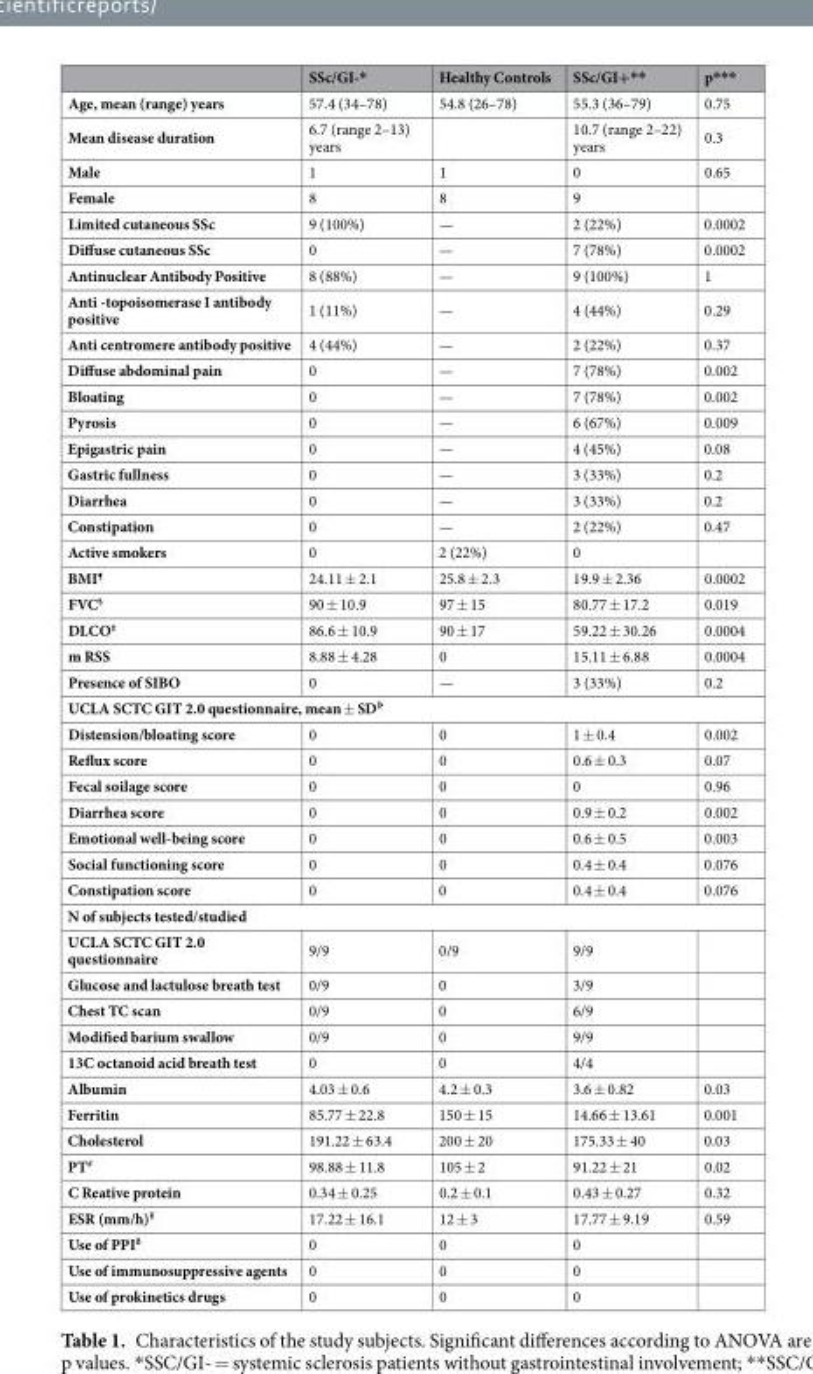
<table><thead><tr><td></td><td>SSc/GI-*</td><td>Healthy Controls</td><td>SSc/GI+**</td><td>p***</td></tr></thead><tbody><tr><td>Age, mean (range) years</td><td>57.4 (34–78)</td><td>54.8 (26–78)</td><td>55.3 (36–79)</td><td>0.75</td></tr><tr><td>Mean disease duration</td><td>6.7 (range 2–13) years</td><td></td><td>10.7 (range 2–22) years</td><td>0.3</td></tr><tr><td>Male</td><td>1</td><td>1</td><td>0</td><td>0.65</td></tr><tr><td>Female</td><td>8</td><td>8</td><td>9</td><td></td></tr><tr><td>Limited cutaneous SSc</td><td>9 (100%)</td><td>—</td><td>2 (22%)</td><td>0.0002</td></tr><tr><td>Diffuse cutaneous SSc</td><td>0</td><td>—</td><td>7 (78%)</td><td>0.0002</td></tr><tr><td>Antinuclear Antibody Positive</td><td>8 (88%)</td><td>—</td><td>9 (100%)</td><td>1</td></tr><tr><td>Anti -topoisomerase I antibody positive</td><td>1 (11%)</td><td>—</td><td>4 (44%)</td><td>0.29</td></tr><tr><td>Anti centromere antibody positive</td><td>4 (44%)</td><td>—</td><td>2 (22%)</td><td>0.37</td></tr><tr><td>Diffuse abdominal pain</td><td>0</td><td>—</td><td>7 (78%)</td><td>0.002</td></tr><tr><td>Bloating</td><td>0</td><td>—</td><td>7 (78%)</td><td>0.002</td></tr><tr><td>Pyrosis</td><td>0</td><td>—</td><td>6 (67%)</td><td>0.009</td></tr><tr><td>Epigastric pain</td><td>0</td><td>—</td><td>4 (45%)</td><td>0.08</td></tr><tr><td>Gastric fullness</td><td>0</td><td>—</td><td>3 (33%)</td><td>0.2</td></tr><tr><td>Diarrhea</td><td>0</td><td>—</td><td>3 (33%)</td><td>0.2</td></tr><tr><td>Constipation</td><td>0</td><td>—</td><td>2 (22%)</td><td>0.47</td></tr><tr><td>Active smokers</td><td>0</td><td>2 (22%)</td><td>0</td><td></td></tr><tr><td>BMI<sup>¶</sup></td><td>24.11 ± 2.1</td><td>25.8 ± 2.3</td><td>19.9 ± 2.36</td><td>0.0002</td></tr><tr><td>FVC<sup>§</sup></td><td>90 ± 10.9</td><td>97 ± 15</td><td>80.77 ± 17.2</td><td>0.019</td></tr><tr><td>DLCO<sup>‡</sup></td><td>86.6 ± 10.9</td><td>90 ± 17</td><td>59.22 ± 30.26</td><td>0.0004</td></tr><tr><td>m RSS</td><td>8.88 ± 4.28</td><td>0</td><td>15.11 ± 6.88</td><td>0.0004</td></tr><tr><td>Presence of SIBO</td><td>0</td><td>—</td><td>3 (33%)</td><td>0.2</td></tr><tr><td colspan="5">UCLA SCTC GIT 2.0 questionnaire, mean ± SD<sup>Þ</sup></td></tr><tr><td>Distension/bloating score</td><td>0</td><td>0</td><td>1 ± 0.4</td><td>0.002</td></tr><tr><td>Reflux score</td><td>0</td><td>0</td><td>0.6 ± 0.3</td><td>0.07</td></tr><tr><td>Fecal soilage score</td><td>0</td><td>0</td><td>0</td><td>0.96</td></tr><tr><td>Diarrhea score</td><td>0</td><td>0</td><td>0.9 ± 0.2</td><td>0.002</td></tr><tr><td>Emotional well-being score</td><td>0</td><td>0</td><td>0.6 ± 0.5</td><td>0.003</td></tr><tr><td>Social functioning score</td><td>0</td><td>0</td><td>0.4 ± 0.4</td><td>0.076</td></tr><tr><td>Constipation score</td><td>0</td><td>0</td><td>0.4 ± 0.4</td><td>0.076</td></tr><tr><td colspan="5">N of subjects tested/studied</td></tr><tr><td>UCLA SCTC GIT 2.0 questionnaire</td><td>9/9</td><td>0/9</td><td>9/9</td><td></td></tr><tr><td>Glucose and lactulose breath test</td><td>0/9</td><td>0</td><td>3/9</td><td></td></tr><tr><td>Chest TC scan</td><td>0/9</td><td>0</td><td>6/9</td><td></td></tr><tr><td>Modified barium swallow</td><td>0/9</td><td>0</td><td>9/9</td><td></td></tr><tr><td>13C octanoid acid breath test</td><td>0</td><td>0</td><td>4/4</td><td></td></tr><tr><td>Albumin</td><td>4.03 ± 0.6</td><td>4.2 ± 0.3</td><td>3.6 ± 0.82</td><td>0.03</td></tr><tr><td>Ferritin</td><td>85.77 ± 22.8</td><td>150 ± 15</td><td>14.66 ± 13.61</td><td>0.001</td></tr><tr><td>Cholesterol</td><td>191.22 ± 63.4</td><td>200 ± 20</td><td>175.33 ± 40</td><td>0.03</td></tr><tr><td>PT<sup>#</sup></td><td>98.88 ± 11.8</td><td>105 ± 2</td><td>91.22 ± 21</td><td>0.02</td></tr><tr><td>C Reative protein</td><td>0.34 ± 0.25</td><td>0.2 ± 0.1</td><td>0.43 ± 0.27</td><td>0.32</td></tr><tr><td>ESR (mm/h)<sup>¥</sup></td><td>17.22 ± 16.1</td><td>12 ± 3</td><td>17.77 ± 9.19</td><td>0.59</td></tr><tr><td>Use of PPI<sup>ð</sup></td><td>0</td><td>0</td><td>0</td><td></td></tr><tr><td>Use of immunosuppressive agents</td><td>0</td><td>0</td><td>0</td><td></td></tr><tr><td>Use of prokinetics drugs</td><td>0</td><td>0</td><td>0</td><td></td></tr></tbody></table>